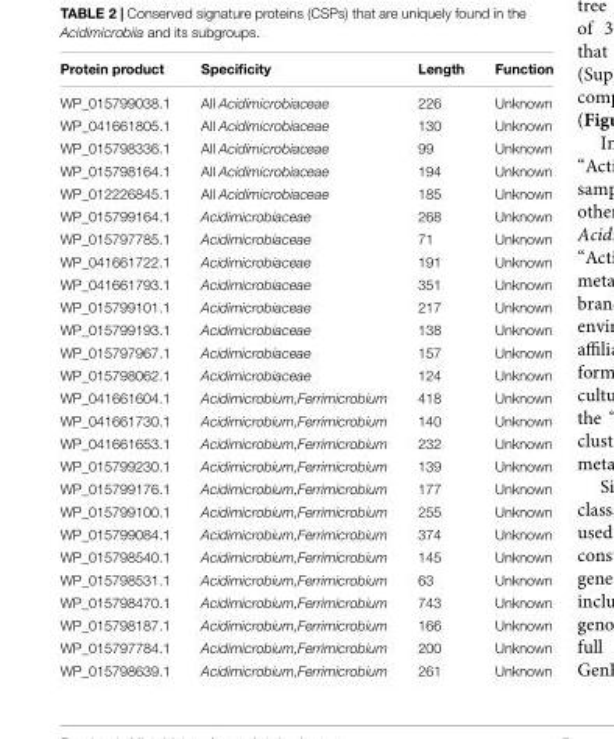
<table><thead><tr><td>Protein product</td><td>Specificity</td><td>Length</td><td>Function</td></tr></thead><tbody><tr><td>WP_015799038.1</td><td>All Acidimicrobiaceae</td><td>226</td><td>Unknown</td></tr><tr><td>WP_041661805.1</td><td>All Acidimicrobiaceae</td><td>130</td><td>Unknown</td></tr><tr><td>WP_015798336.1</td><td>All Acidimicrobiaceae</td><td>99</td><td>Unknown</td></tr><tr><td>WP_015798164.1</td><td>All Acidimicrobiaceae</td><td>194</td><td>Unknown</td></tr><tr><td>WP_012226845.1</td><td>All Acidimicrobiaceae</td><td>185</td><td>Unknown</td></tr><tr><td>WP_015799164.1</td><td>Acidimicrobiaceae</td><td>268</td><td>Unknown</td></tr><tr><td>WP_015797785.1</td><td>Acidimicrobiaceae</td><td>71</td><td>Unknown</td></tr><tr><td>WP_041661722.1</td><td>Acidimicrobiaceae</td><td>191</td><td>Unknown</td></tr><tr><td>WP_041661793.1</td><td>Acidimicrobiaceae</td><td>351</td><td>Unknown</td></tr><tr><td>WP_015799101.1</td><td>Acidimicrobiaceae</td><td>217</td><td>Unknown</td></tr><tr><td>WP_015799193.1</td><td>Acidimicrobiaceae</td><td>138</td><td>Unknown</td></tr><tr><td>WP_015797967.1</td><td>Acidimicrobiaceae</td><td>157</td><td>Unknown</td></tr><tr><td>WP_015798062.1</td><td>Acidimicrobiaceae</td><td>124</td><td>Unknown</td></tr><tr><td>WP_041661604.1</td><td>Acidimicrobium,Ferrimicrobium</td><td>418</td><td>Unknown</td></tr><tr><td>WP_041661730.1</td><td>Acidimicrobium,Ferrimicrobium</td><td>140</td><td>Unknown</td></tr><tr><td>WP_041661653.1</td><td>Acidimicrobium,Ferrimicrobium</td><td>232</td><td>Unknown</td></tr><tr><td>WP_015799230.1</td><td>Acidimicrobium,Ferrimicrobium</td><td>139</td><td>Unknown</td></tr><tr><td>WP_015799176.1</td><td>Acidimicrobium,Ferrimicrobium</td><td>177</td><td>Unknown</td></tr><tr><td>WP_015799100.1</td><td>Acidimicrobium,Ferrimicrobium</td><td>255</td><td>Unknown</td></tr><tr><td>WP_015799084.1</td><td>Acidimicrobium,Ferrimicrobium</td><td>374</td><td>Unknown</td></tr><tr><td>WP_015798540.1</td><td>Acidimicrobium,Ferrimicrobium</td><td>145</td><td>Unknown</td></tr><tr><td>WP_015798531.1</td><td>Acidimicrobium,Ferrimicrobium</td><td>63</td><td>Unknown</td></tr><tr><td>WP_015798470.1</td><td>Acidimicrobium,Ferrimicrobium</td><td>743</td><td>Unknown</td></tr><tr><td>WP_015798187.1</td><td>Acidimicrobium,Ferrimicrobium</td><td>166</td><td>Unknown</td></tr><tr><td>WP_015797784.1</td><td>Acidimicrobium,Ferrimicrobium</td><td>200</td><td>Unknown</td></tr><tr><td>WP_015798639.1</td><td>Acidimicrobium,Ferrimicrobium</td><td>261</td><td>Unknown</td></tr></tbody></table>